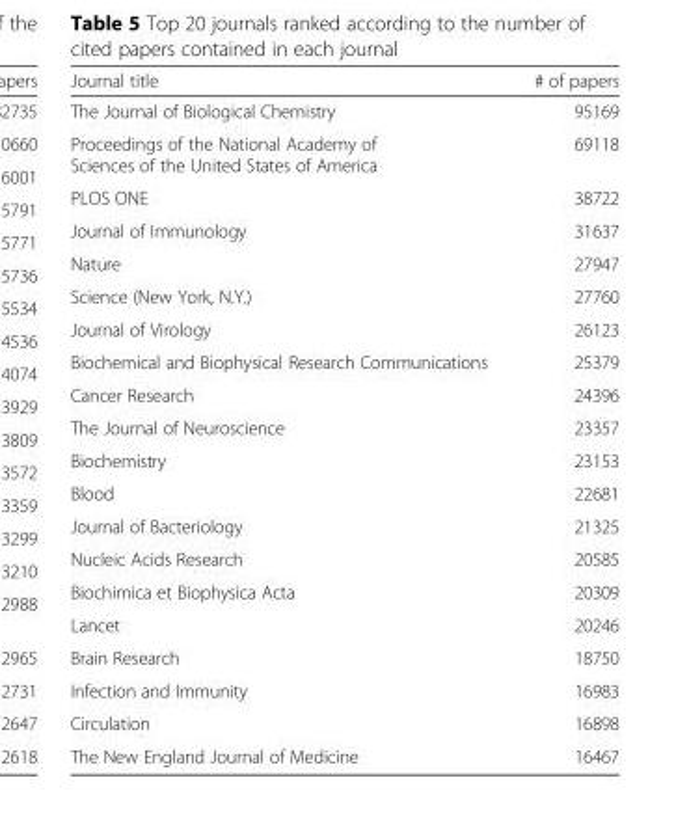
<table><thead><tr><td>Journal title</td><td># of papers</td></tr></thead><tbody><tr><td>The Journal of Biological Chemistry</td><td>95169</td></tr><tr><td>Proceedings of the National Academy of Sciences of the United States of America</td><td>69118</td></tr><tr><td>PLOS ONE</td><td>38722</td></tr><tr><td>Journal of Immunology</td><td>31637</td></tr><tr><td>Nature</td><td>27947</td></tr><tr><td>Science (New York, N.Y.)</td><td>27760</td></tr><tr><td>Journal of Virology</td><td>26123</td></tr><tr><td>Biochemical and Biophysical Research Communications</td><td>25379</td></tr><tr><td>Cancer Research</td><td>24396</td></tr><tr><td>The Journal of Neuroscience</td><td>23357</td></tr><tr><td>Biochemistry</td><td>23153</td></tr><tr><td>Blood</td><td>22681</td></tr><tr><td>Journal of Bacteriology</td><td>21325</td></tr><tr><td>Nucleic Acids Research</td><td>20585</td></tr><tr><td>Biochimica et Biophysica Acta</td><td>20309</td></tr><tr><td>Lancet</td><td>20246</td></tr><tr><td>Brain Research</td><td>18750</td></tr><tr><td>Infection and Immunity</td><td>16983</td></tr><tr><td>Circulation</td><td>16898</td></tr><tr><td>The New England Journal of Medicine</td><td>16467</td></tr></tbody></table>